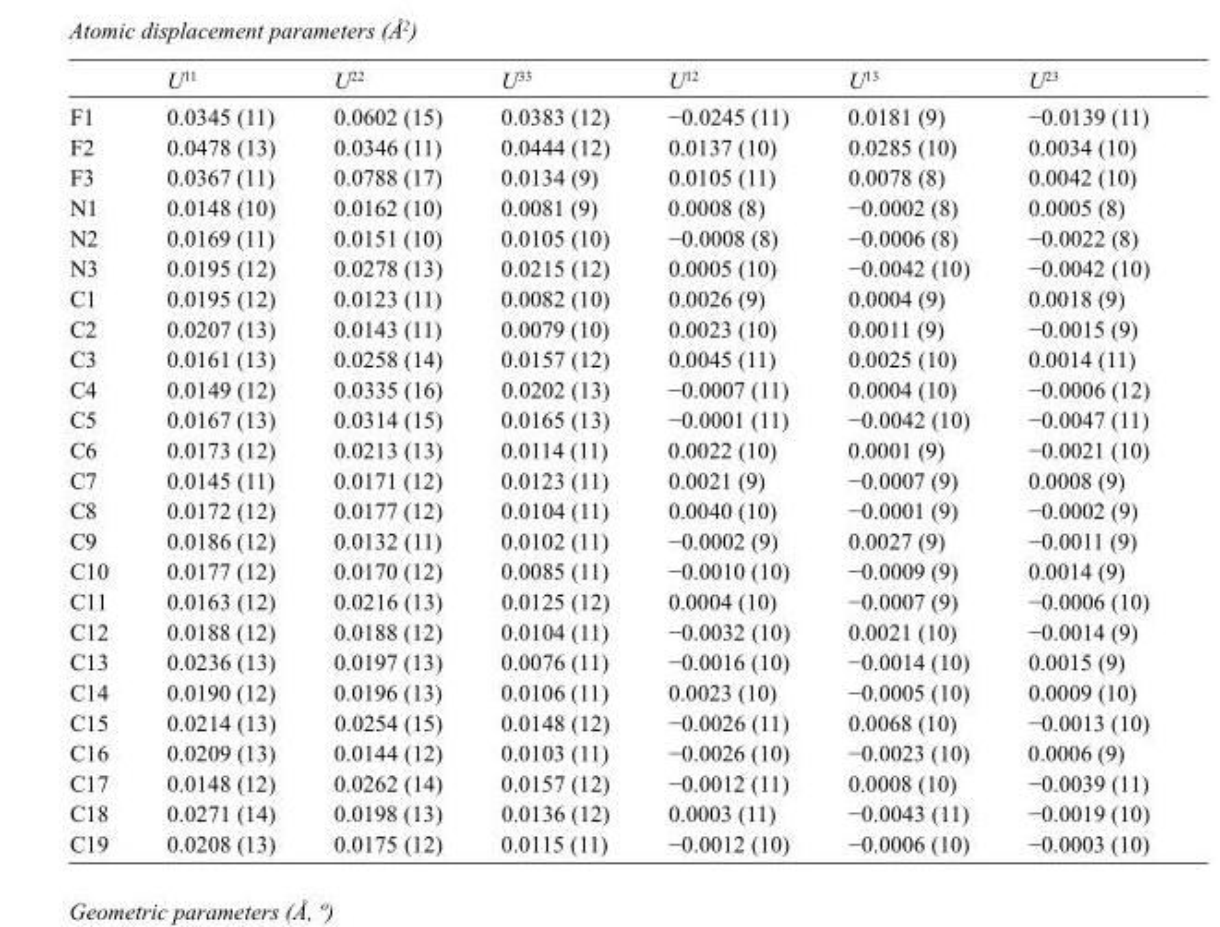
<table><thead><tr><td></td><td>U<sup>11</sup></td><td>U<sup>22</sup></td><td>U<sup>33</sup></td><td>U<sup>12</sup></td><td>U<sup>13</sup></td><td>U<sup>23</sup></td></tr></thead><tbody><tr><td>F1</td><td>0.0345 (11)</td><td>0.0602 (15)</td><td>0.0383 (12)</td><td>−0.0245 (11)</td><td>0.0181 (9)</td><td>−0.0139 (11)</td></tr><tr><td>F2</td><td>0.0478 (13)</td><td>0.0346 (11)</td><td>0.0444 (12)</td><td>0.0137 (10)</td><td>0.0285 (10)</td><td>0.0034 (10)</td></tr><tr><td>F3</td><td>0.0367 (11)</td><td>0.0788 (17)</td><td>0.0134 (9)</td><td>0.0105 (11)</td><td>0.0078 (8)</td><td>0.0042 (10)</td></tr><tr><td>N1</td><td>0.0148 (10)</td><td>0.0162 (10)</td><td>0.0081 (9)</td><td>0.0008 (8)</td><td>−0.0002 (8)</td><td>0.0005 (8)</td></tr><tr><td>N2</td><td>0.0169 (11)</td><td>0.0151 (10)</td><td>0.0105 (10)</td><td>−0.0008 (8)</td><td>−0.0006 (8)</td><td>−0.0022 (8)</td></tr><tr><td>N3</td><td>0.0195 (12)</td><td>0.0278 (13)</td><td>0.0215 (12)</td><td>0.0005 (10)</td><td>−0.0042 (10)</td><td>−0.0042 (10)</td></tr><tr><td>C1</td><td>0.0195 (12)</td><td>0.0123 (11)</td><td>0.0082 (10)</td><td>0.0026 (9)</td><td>0.0004 (9)</td><td>0.0018 (9)</td></tr><tr><td>C2</td><td>0.0207 (13)</td><td>0.0143 (11)</td><td>0.0079 (10)</td><td>0.0023 (10)</td><td>0.0011 (9)</td><td>−0.0015 (9)</td></tr><tr><td>C3</td><td>0.0161 (13)</td><td>0.0258 (14)</td><td>0.0157 (12)</td><td>0.0045 (11)</td><td>0.0025 (10)</td><td>0.0014 (11)</td></tr><tr><td>C4</td><td>0.0149 (12)</td><td>0.0335 (16)</td><td>0.0202 (13)</td><td>−0.0007 (11)</td><td>0.0004 (10)</td><td>−0.0006 (12)</td></tr><tr><td>C5</td><td>0.0167 (13)</td><td>0.0314 (15)</td><td>0.0165 (13)</td><td>−0.0001 (11)</td><td>−0.0042 (10)</td><td>−0.0047 (11)</td></tr><tr><td>C6</td><td>0.0173 (12)</td><td>0.0213 (13)</td><td>0.0114 (11)</td><td>0.0022 (10)</td><td>0.0001 (9)</td><td>−0.0021 (10)</td></tr><tr><td>C7</td><td>0.0145 (11)</td><td>0.0171 (12)</td><td>0.0123 (11)</td><td>0.0021 (9)</td><td>−0.0007 (9)</td><td>0.0008 (9)</td></tr><tr><td>C8</td><td>0.0172 (12)</td><td>0.0177 (12)</td><td>0.0104 (11)</td><td>0.0040 (10)</td><td>−0.0001 (9)</td><td>−0.0002 (9)</td></tr><tr><td>C9</td><td>0.0186 (12)</td><td>0.0132 (11)</td><td>0.0102 (11)</td><td>−0.0002 (9)</td><td>0.0027 (9)</td><td>−0.0011 (9)</td></tr><tr><td>C10</td><td>0.0177 (12)</td><td>0.0170 (12)</td><td>0.0085 (11)</td><td>−0.0010 (10)</td><td>−0.0009 (9)</td><td>0.0014 (9)</td></tr><tr><td>C11</td><td>0.0163 (12)</td><td>0.0216 (13)</td><td>0.0125 (12)</td><td>0.0004 (10)</td><td>−0.0007 (9)</td><td>−0.0006 (10)</td></tr><tr><td>C12</td><td>0.0188 (12)</td><td>0.0188 (12)</td><td>0.0104 (11)</td><td>−0.0032 (10)</td><td>0.0021 (10)</td><td>−0.0014 (9)</td></tr><tr><td>C13</td><td>0.0236 (13)</td><td>0.0197 (13)</td><td>0.0076 (11)</td><td>−0.0016 (10)</td><td>−0.0014 (10)</td><td>0.0015 (9)</td></tr><tr><td>C14</td><td>0.0190 (12)</td><td>0.0196 (13)</td><td>0.0106 (11)</td><td>0.0023 (10)</td><td>−0.0005 (10)</td><td>0.0009 (10)</td></tr><tr><td>C15</td><td>0.0214 (13)</td><td>0.0254 (15)</td><td>0.0148 (12)</td><td>−0.0026 (11)</td><td>0.0068 (10)</td><td>−0.0013 (10)</td></tr><tr><td>C16</td><td>0.0209 (13)</td><td>0.0144 (12)</td><td>0.0103 (11)</td><td>−0.0026 (10)</td><td>−0.0023 (10)</td><td>0.0006 (9)</td></tr><tr><td>C17</td><td>0.0148 (12)</td><td>0.0262 (14)</td><td>0.0157 (12)</td><td>−0.0012 (11)</td><td>0.0008 (10)</td><td>−0.0039 (11)</td></tr><tr><td>C18</td><td>0.0271 (14)</td><td>0.0198 (13)</td><td>0.0136 (12)</td><td>0.0003 (11)</td><td>−0.0043 (11)</td><td>−0.0019 (10)</td></tr><tr><td>C19</td><td>0.0208 (13)</td><td>0.0175 (12)</td><td>0.0115 (11)</td><td>−0.0012 (10)</td><td>−0.0006 (10)</td><td>−0.0003 (10)</td></tr></tbody></table>